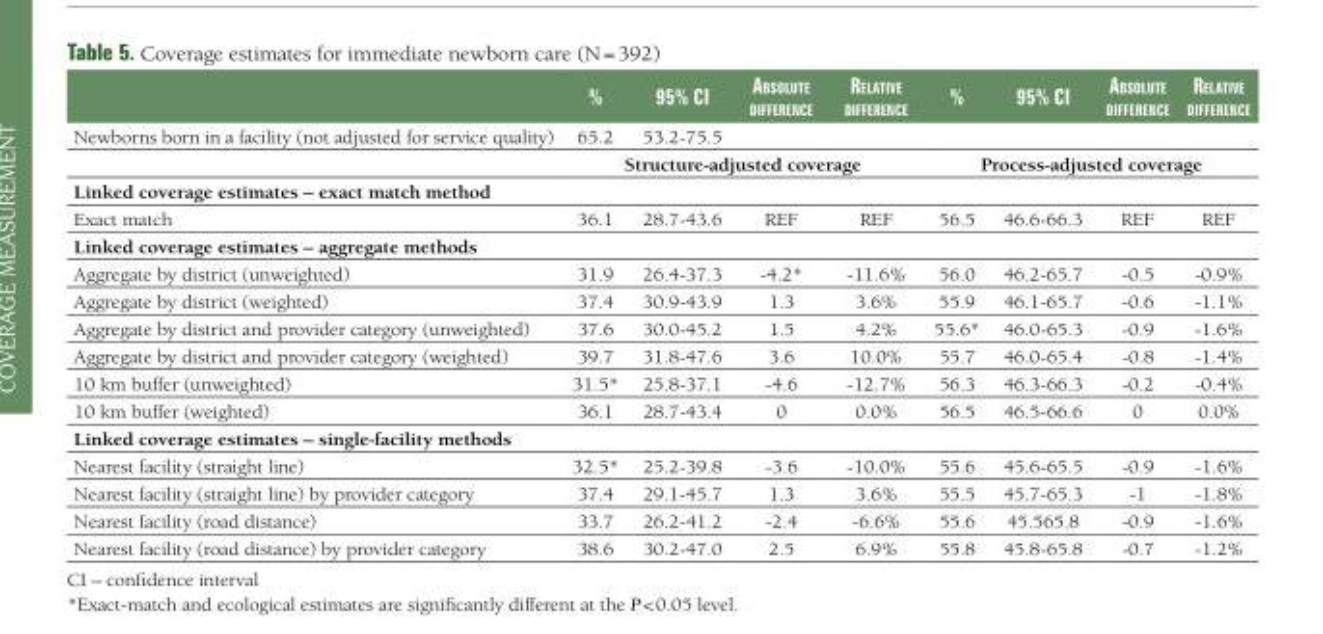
<table><thead><tr><td></td><td>%</td><td>95% CI</td><td>absOlute dIFFerenCe</td><td>relatIve dIFFerenCe</td><td>%</td><td>95% CI</td><td>absOlute dIFFerenCe</td><td>relatIve dIFFerenCe</td></tr></thead><tbody><tr><td rowspan="2">Newborns born in a facility (not adjusted for service quality)</td><td>65.2</td><td>53.2-75.5</td><td></td><td></td><td></td><td></td><td></td><td></td></tr><tr><td colspan="4">Structure-adjusted coverage</td><td colspan="4">Process-adjusted coverage</td></tr><tr><td colspan="9">Linked coverage estimates – exact match method</td></tr><tr><td>Exact match</td><td>36.1</td><td>28.7-43.6</td><td>REF</td><td>REF</td><td>56.5</td><td>46.6-66.3</td><td>REF</td><td>REF</td></tr><tr><td colspan="9">Linked coverage estimates – aggregate methods</td></tr><tr><td>Aggregate by district (unweighted)</td><td>31.9</td><td>26.4-37.3</td><td>-4.2*</td><td>-11.6%</td><td>56.0</td><td>46.2-65.7</td><td>-0.5</td><td>-0.9%</td></tr><tr><td>Aggregate by district (weighted)</td><td>37.4</td><td>30.9-43.9</td><td>1.3</td><td>3.6%</td><td>55.9</td><td>46.1-65.7</td><td>-0.6</td><td>-1.1%</td></tr><tr><td>Aggregate by district and provider category (unweighted)</td><td>37.6</td><td>30.0-45.2</td><td>1.5</td><td>4.2%</td><td>55.6*</td><td>46.0-65.3</td><td>-0.9</td><td>-1.6%</td></tr><tr><td>Aggregate by district and provider category (weighted)</td><td>39.7</td><td>31.8-47.6</td><td>3.6</td><td>10.0%</td><td>55.7</td><td>46.0-65.4</td><td>-0.8</td><td>-1.4%</td></tr><tr><td>10 km buffer (unweighted)</td><td>31.5*</td><td>25.8-37.1</td><td>-4.6</td><td>-12.7%</td><td>56.3</td><td>46.3-66.3</td><td>-0.2</td><td>-0.4%</td></tr><tr><td>10 km buffer (weighted)</td><td>36.1</td><td>28.7-43.4</td><td>0</td><td>0.0%</td><td>56.5</td><td>46.5-66.6</td><td>0</td><td>0.0%</td></tr><tr><td colspan="9">Linked coverage estimates – single-facility methods</td></tr><tr><td>Nearest facility (straight line)</td><td>32.5*</td><td>25.2-39.8</td><td>-3.6</td><td>-10.0%</td><td>55.6</td><td>45.6-65.5</td><td>-0.9</td><td>-1.6%</td></tr><tr><td>Nearest facility (straight line) by provider category</td><td>37.4</td><td>29.1-45.7</td><td>1.3</td><td>3.6%</td><td>55.5</td><td>45.7-65.3</td><td>-1</td><td>-1.8%</td></tr><tr><td>Nearest facility (road distance)</td><td>33.7</td><td>26.2-41.2</td><td>-2.4</td><td>-6.6%</td><td>55.6</td><td>45.565.8</td><td>-0.9</td><td>-1.6%</td></tr><tr><td>Nearest facility (road distance) by provider category</td><td>38.6</td><td>30.2-47.0</td><td>2.5</td><td>6.9%</td><td>55.8</td><td>45.8-65.8</td><td>-0.7</td><td>-1.2%</td></tr></tbody></table>